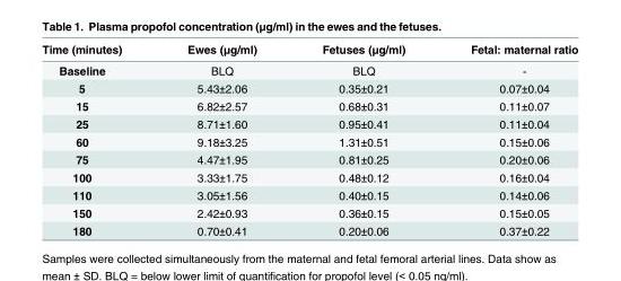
<table><thead><tr><td>Time (minutes)</td><td>Ewes (μg/ml)</td><td>Fetuses (μg/ml)</td><td>Fetal: maternal ratio</td></tr></thead><tbody><tr><td>Baseline</td><td>BLQ</td><td>BLQ</td><td>-</td></tr><tr><td>5</td><td>5.43±2.06</td><td>0.35±0.21</td><td>0.07±0.04</td></tr><tr><td>15</td><td>6.82±2.57</td><td>0.68±0.31</td><td>0.11±0.07</td></tr><tr><td>25</td><td>8.71±1.60</td><td>0.95±0.41</td><td>0.11±0.04</td></tr><tr><td>60</td><td>9.18±3.25</td><td>1.31±0.51</td><td>0.15±0.06</td></tr><tr><td>75</td><td>4.47±1.95</td><td>0.81±0.25</td><td>0.20±0.06</td></tr><tr><td>100</td><td>3.33±1.75</td><td>0.48±0.12</td><td>0.16±0.04</td></tr><tr><td>110</td><td>3.05±1.56</td><td>0.40±0.15</td><td>0.14±0.06</td></tr><tr><td>150</td><td>2.42±0.93</td><td>0.36±0.15</td><td>0.15±0.05</td></tr><tr><td>180</td><td>0.70±0.41</td><td>0.20±0.06</td><td>0.37±0.22</td></tr></tbody></table>